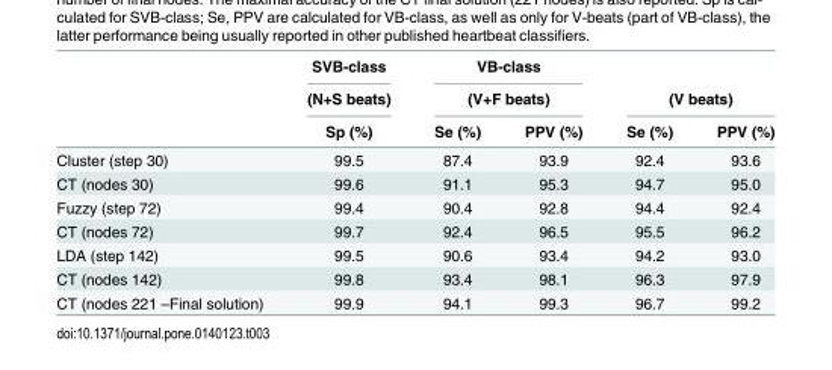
<table><thead><tr><td rowspan="3"></td><td rowspan="3">SVB-class (N+S beats) Sp (%)</td><td rowspan="2" colspan="2">VB-class (V+F beats)</td><td></td><td></td></tr><tr><td colspan="2">(V beats)</td></tr><tr><td>Se (%)</td><td>PPV (%)</td><td>Se (%)</td><td>PPV (%)</td></tr></thead><tbody><tr><td>Cluster (step 30)</td><td>99.5</td><td>87.4</td><td>93.9</td><td>92.4</td><td>93.6</td></tr><tr><td>CT (nodes 30)</td><td>99.6</td><td>91.1</td><td>95.3</td><td>94.7</td><td>95.0</td></tr><tr><td>Fuzzy (step 72)</td><td>99.4</td><td>90.4</td><td>92.8</td><td>94.4</td><td>92.4</td></tr><tr><td>CT (nodes 72)</td><td>99.7</td><td>92.4</td><td>96.5</td><td>95.5</td><td>96.2</td></tr><tr><td>LDA (step 142)</td><td>99.5</td><td>90.6</td><td>93.4</td><td>94.2</td><td>93.0</td></tr><tr><td>CT (nodes 142)</td><td>99.8</td><td>93.4</td><td>98.1</td><td>96.3</td><td>97.9</td></tr><tr><td>CT (nodes 221 –Final solution)</td><td>99.9</td><td>94.1</td><td>99.3</td><td>96.7</td><td>99.2</td></tr></tbody></table>